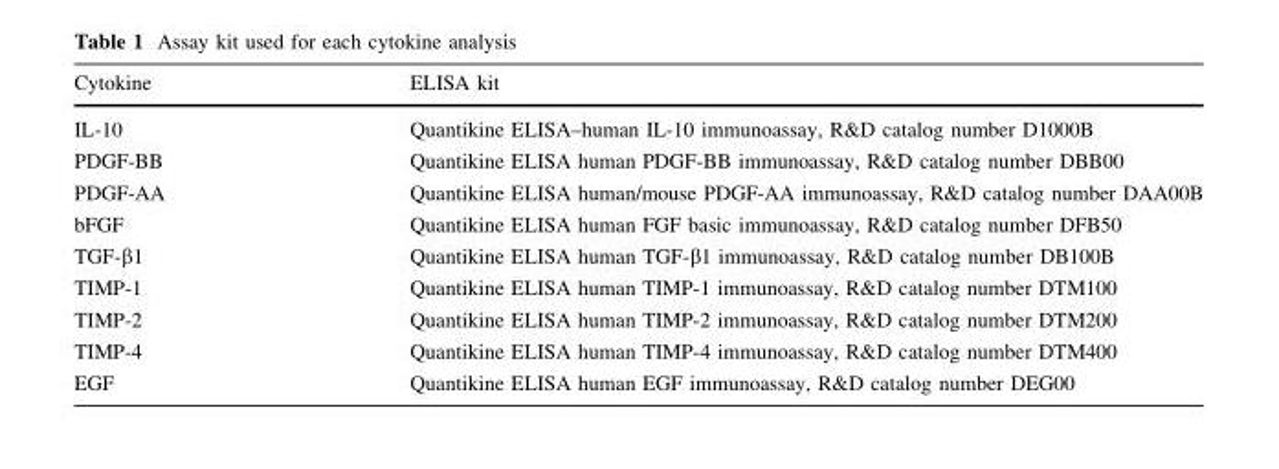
<table><thead><tr><td>Cytokine</td><td>ELISA kit</td></tr></thead><tbody><tr><td>IL-10</td><td>Quantikine ELISA–human IL-10 immunoassay, R&amp;D catalog number D1000B</td></tr><tr><td>PDGF-BB</td><td>Quantikine ELISA human PDGF-BB immunoassay, R&amp;D catalog number DBB00</td></tr><tr><td>PDGF-AA</td><td>Quantikine ELISA human/mouse PDGF-AA immunoassay, R&amp;D catalog number DAA00B</td></tr><tr><td>bFGF</td><td>Quantikine ELISA human FGF basic immunoassay, R&amp;D catalog number DFB50</td></tr><tr><td>TGF-β1</td><td>Quantikine ELISA human TGF-β1 immunoassay, R&amp;D catalog number DB100B</td></tr><tr><td>TIMP-1</td><td>Quantikine ELISA human TIMP-1 immunoassay, R&amp;D catalog number DTM100</td></tr><tr><td>TIMP-2</td><td>Quantikine ELISA human TIMP-2 immunoassay, R&amp;D catalog number DTM200</td></tr><tr><td>TIMP-4</td><td>Quantikine ELISA human TIMP-4 immunoassay, R&amp;D catalog number DTM400</td></tr><tr><td>EGF</td><td>Quantikine ELISA human EGF immunoassay, R&amp;D catalog number DEG00</td></tr></tbody></table>